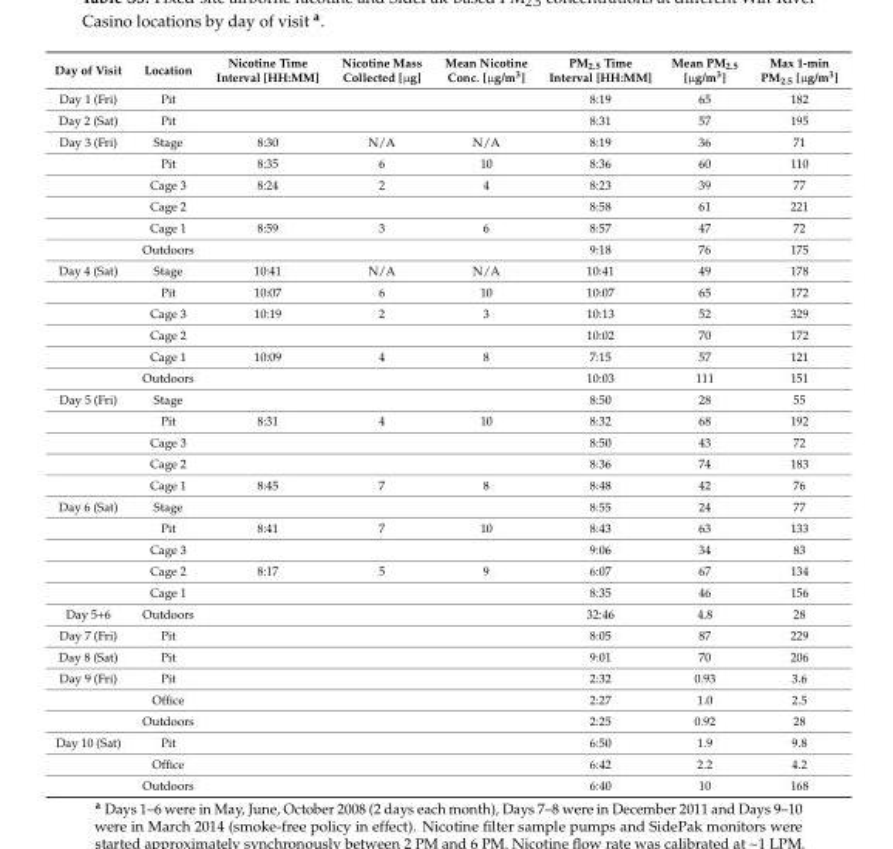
<table><thead><tr><td>Day of Visit</td><td>Location</td><td>Nicotine Time Interval [HH:MM]</td><td>Nicotine Mass Collected [µg]</td><td>Mean Nicotine Conc. [µg/m<sup>3</sup>]</td><td>PM<sub>2.5</sub> Time Interval [HH:MM]</td><td>Mean PM<sub>2.5</sub> [µg/m<sup>3</sup>]</td><td>Max 1-min PM<sub>2.5</sub> [µg/m<sup>3</sup>]</td></tr></thead><tbody><tr><td>Day 1 (Fri)</td><td>Pit</td><td></td><td></td><td></td><td>8:19</td><td>65</td><td>182</td></tr><tr><td>Day 2 (Sat)</td><td>Pit</td><td></td><td></td><td></td><td>8:31</td><td>57</td><td>195</td></tr><tr><td rowspan="6">Day 3 (Fri)</td><td>Stage</td><td>8:30</td><td>N/A</td><td>N/A</td><td>8:19</td><td>36</td><td>71</td></tr><tr><td>Pit</td><td>8:35</td><td>6</td><td>10</td><td>8:36</td><td>60</td><td>110</td></tr><tr><td>Cage 3</td><td>8:24</td><td>2</td><td>4</td><td>8:23</td><td>39</td><td>77</td></tr><tr><td>Cage 2</td><td></td><td></td><td></td><td>8:58</td><td>61</td><td>221</td></tr><tr><td>Cage 1</td><td>8:59</td><td>3</td><td>6</td><td>8:57</td><td>47</td><td>72</td></tr><tr><td>Outdoors</td><td></td><td></td><td></td><td>9:18</td><td>76</td><td>175</td></tr><tr><td rowspan="6">Day 4 (Sat)</td><td>Stage</td><td>10:41</td><td>N/A</td><td>N/A</td><td>10:41</td><td>49</td><td>178</td></tr><tr><td>Pit</td><td>10:07</td><td>6</td><td>10</td><td>10:07</td><td>65</td><td>172</td></tr><tr><td>Cage 3</td><td>10:19</td><td>2</td><td>3</td><td>10:13</td><td>52</td><td>329</td></tr><tr><td>Cage 2</td><td></td><td></td><td></td><td>10:02</td><td>70</td><td>172</td></tr><tr><td>Cage 1</td><td>10:09</td><td>4</td><td>8</td><td>7:15</td><td>57</td><td>121</td></tr><tr><td>Outdoors</td><td></td><td></td><td></td><td>10:03</td><td>111</td><td>151</td></tr><tr><td rowspan="5">Day 5 (Fri)</td><td>Stage</td><td></td><td></td><td></td><td>8:50</td><td>28</td><td>55</td></tr><tr><td>Pit</td><td>8:31</td><td>4</td><td>10</td><td>8:32</td><td>68</td><td>192</td></tr><tr><td>Cage 3</td><td></td><td></td><td></td><td>8:50</td><td>43</td><td>72</td></tr><tr><td>Cage 2</td><td></td><td></td><td></td><td>8:36</td><td>74</td><td>183</td></tr><tr><td>Cage 1</td><td>8:45</td><td>7</td><td>8</td><td>8:48</td><td>42</td><td>76</td></tr><tr><td rowspan="5">Day 6 (Sat)</td><td>Stage</td><td></td><td></td><td></td><td>8:55</td><td>24</td><td>77</td></tr><tr><td>Pit</td><td>8:41</td><td>7</td><td>10</td><td>8:43</td><td>63</td><td>133</td></tr><tr><td>Cage 3</td><td></td><td></td><td></td><td>9:06</td><td>34</td><td>83</td></tr><tr><td>Cage 2</td><td>8:17</td><td>5</td><td>9</td><td>6:07</td><td>67</td><td>134</td></tr><tr><td>Cage 1</td><td></td><td></td><td></td><td>8:35</td><td>46</td><td>156</td></tr><tr><td>Day 5+6</td><td>Outdoors</td><td></td><td></td><td></td><td>32:46</td><td>4.8</td><td>28</td></tr><tr><td>Day 7 (Fri)</td><td>Pit</td><td></td><td></td><td></td><td>8:05</td><td>87</td><td>229</td></tr><tr><td>Day 8 (Sat)</td><td>Pit</td><td></td><td></td><td></td><td>9:01</td><td>70</td><td>206</td></tr><tr><td rowspan="3">Day 9 (Fri)</td><td>Pit</td><td></td><td></td><td></td><td>2:32</td><td>0.93</td><td>3.6</td></tr><tr><td>Office</td><td></td><td></td><td></td><td>2:27</td><td>1.0</td><td>2.5</td></tr><tr><td>Outdoors</td><td></td><td></td><td></td><td>2:25</td><td>0.92</td><td>28</td></tr><tr><td rowspan="3">Day 10 (Sat)</td><td>Pit</td><td></td><td></td><td></td><td>6:50</td><td>1.9</td><td>9.8</td></tr><tr><td>Office</td><td></td><td></td><td></td><td>6:42</td><td>2.2</td><td>4.2</td></tr><tr><td>Outdoors</td><td></td><td></td><td></td><td>6:40</td><td>10</td><td>168</td></tr></tbody></table>